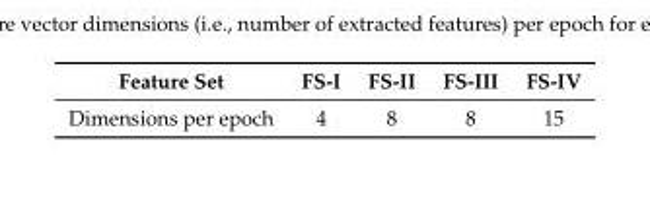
<table><thead><tr><td>Feature Set</td><td>FS-I</td><td>FS-II</td><td>FS-III</td><td>FS-IV</td></tr></thead><tbody><tr><td>Dimensions per epoch</td><td>4</td><td>8</td><td>8</td><td>15</td></tr></tbody></table>